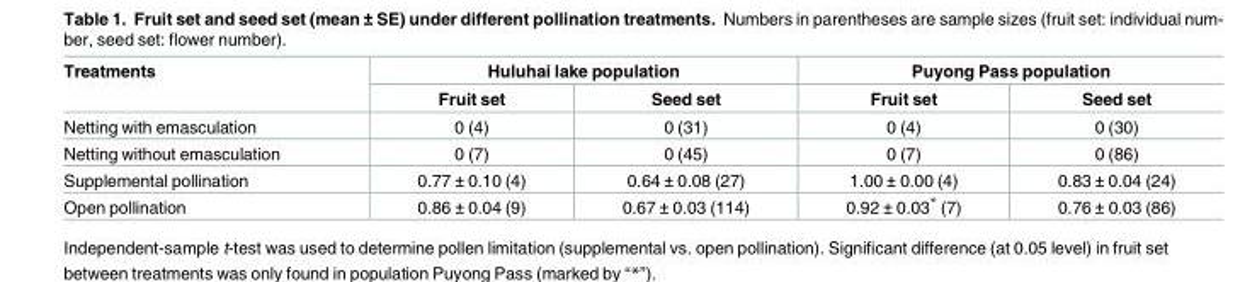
<table><thead><tr><td rowspan="2">Treatments</td><td colspan="2">Huluhai lake population</td><td colspan="2">Puyong Pass population</td></tr><tr><td>Fruit set</td><td>Seed set</td><td>Fruit set</td><td>Seed set</td></tr></thead><tbody><tr><td>Netting with emasculation</td><td>0 (4)</td><td>0 (31)</td><td>0 (4)</td><td>0 (30)</td></tr><tr><td>Netting without emasculation</td><td>0 (7)</td><td>0 (45)</td><td>0 (7)</td><td>0 (86)</td></tr><tr><td>Supplemental pollination</td><td>0.77 ± 0.10 (4)</td><td>0.64 ± 0.08 (27)</td><td>1.00 ± 0.00 (4)</td><td>0.83 ± 0.04 (24)</td></tr><tr><td>Open pollination</td><td>0.86 ± 0.04 (9)</td><td>0.67 ± 0.03 (114)</td><td>0.92 ± 0.03* (7)</td><td>0.76 ± 0.03 (86)</td></tr></tbody></table>